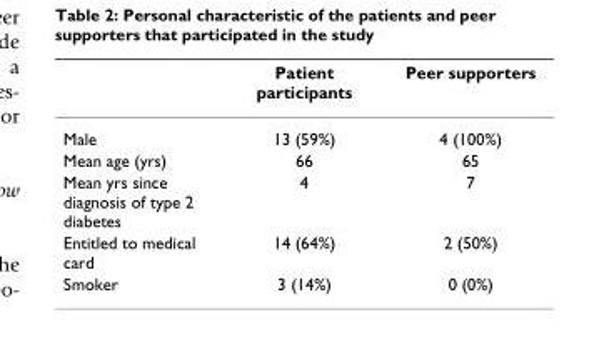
<table><thead><tr><td></td><td>Patient participants</td><td>Peer supporters</td></tr></thead><tbody><tr><td>Male</td><td>13 (59%)</td><td>4 (100%)</td></tr><tr><td>Mean age (yrs)</td><td>66</td><td>65</td></tr><tr><td>Mean yrs since diagnosis of type 2 diabetes</td><td>4</td><td>7</td></tr><tr><td>Entitled to medical card</td><td>14 (64%)</td><td>2 (50%)</td></tr><tr><td>Smoker</td><td>3 (14%)</td><td>0 (0%)</td></tr></tbody></table>